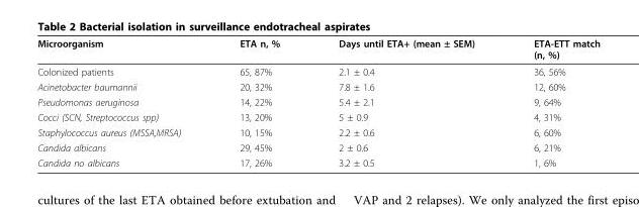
<table><thead><tr><td>Microorganism</td><td>ETA n, %</td><td>Days until ETA+ (mean ± SEM)</td><td>ETA-ETT match (n, %)</td></tr></thead><tbody><tr><td>Colonized patients</td><td>65, 87%</td><td>2.1 ± 0.4</td><td>36, 56%</td></tr><tr><td>Acinetobacter baumannii</td><td>20, 32%</td><td>7.8 ± 1.6</td><td>12, 60%</td></tr><tr><td>Pseudomonas aeruginosa</td><td>14, 22%</td><td>5.4 ± 2.1</td><td>9, 64%</td></tr><tr><td>Cocci (SCN, Streptococcus spp)</td><td>13, 20%</td><td>5 ± 0.9</td><td>4, 31%</td></tr><tr><td>Staphylococcus aureus (MSSA,MRSA)</td><td>10, 15%</td><td>2.2 ± 0.6</td><td>6, 60%</td></tr><tr><td>Candida albicans</td><td>29, 45%</td><td>2 ± 0.6</td><td>6, 21%</td></tr><tr><td>Candida no albicans</td><td>17, 26%</td><td>3.2 ± 0.5</td><td>1, 6%</td></tr></tbody></table>